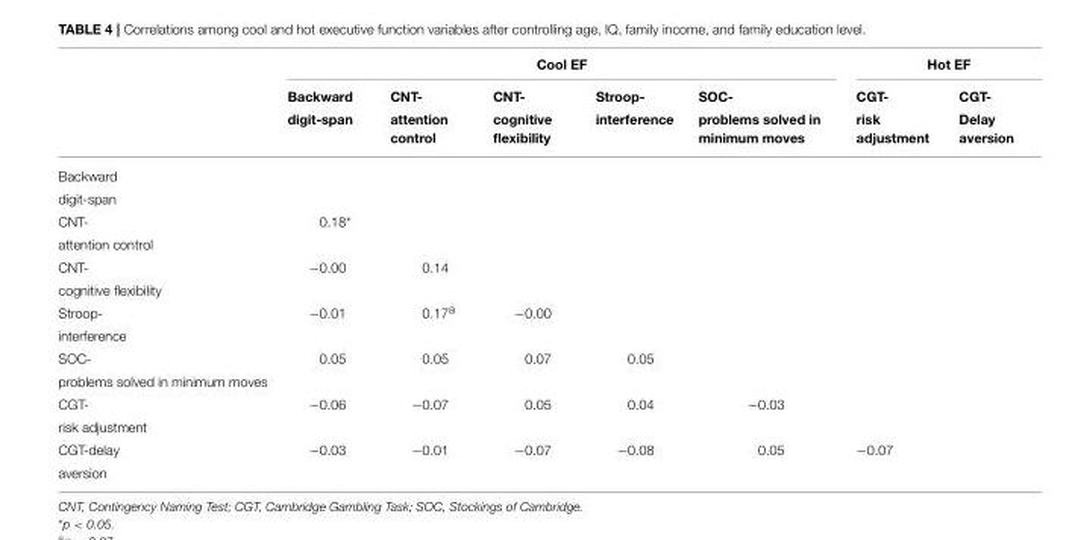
<table><thead><tr><td rowspan="2"></td><td colspan="5">Cool EF</td><td colspan="2">Hot EF</td></tr><tr><td>Backward digit-span</td><td>CNT- attention control</td><td>CNT- cognitive flexibility</td><td>Stroop- interference</td><td>SOC- problems solved in minimum moves</td><td>CGT- risk adjustment</td><td>CGT- Delay aversion</td></tr></thead><tbody><tr><td colspan="8">Backward</td></tr><tr><td colspan="8">digit-span</td></tr><tr><td>CNT-</td><td>0.18*</td><td></td><td></td><td></td><td></td><td></td><td></td></tr><tr><td colspan="8">attention control</td></tr><tr><td>CNT-</td><td>−0.00</td><td>0.14</td><td></td><td></td><td></td><td></td><td></td></tr><tr><td colspan="8">cognitive flexibility</td></tr><tr><td>Stroop-</td><td>−0.01</td><td>0.17<sup>a</sup></td><td>−0.00</td><td></td><td></td><td></td><td></td></tr><tr><td colspan="8">interference</td></tr><tr><td>SOC-</td><td>0.05</td><td>0.05</td><td>0.07</td><td>0.05</td><td></td><td></td><td></td></tr><tr><td colspan="8">problems solved in minimum moves</td></tr><tr><td>CGT-</td><td>−0.06</td><td>−0.07</td><td>0.05</td><td>0.04</td><td>−0.03</td><td></td><td></td></tr><tr><td colspan="8">risk adjustment</td></tr><tr><td>CGT-delay</td><td>−0.03</td><td>−0.01</td><td>−0.07</td><td>−0.08</td><td>0.05</td><td>−0.07</td><td></td></tr><tr><td>aversion</td><td></td><td></td><td></td><td></td><td></td><td></td><td></td></tr></tbody></table>